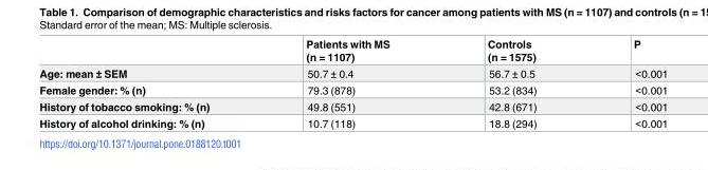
<table><thead><tr><td></td><td>Patients with MS (n = 1107)</td><td>Controls (n = 1575)</td><td>P</td></tr></thead><tbody><tr><td>Age: mean ± SEM</td><td>50.7 ± 0.4</td><td>56.7 ± 0.5</td><td>&lt;0.001</td></tr><tr><td>Female gender: % (n)</td><td>79.3 (878)</td><td>53.2 (834)</td><td>&lt;0.001</td></tr><tr><td>History of tobacco smoking: % (n)</td><td>49.8 (551)</td><td>42.8 (671)</td><td>&lt;0.001</td></tr><tr><td>History of alcohol drinking: % (n)</td><td>10.7 (118)</td><td>18.8 (294)</td><td>&lt;0.001</td></tr></tbody></table>